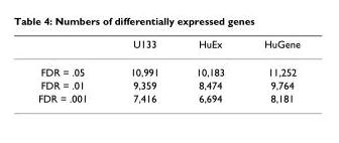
<table><thead><tr><td></td><td>U133</td><td>HuEx</td><td>HuGene</td></tr></thead><tbody><tr><td>FDR = .05</td><td>10,991</td><td>10,183</td><td>11,252</td></tr><tr><td>FDR = .01</td><td>9,359</td><td>8,474</td><td>9,764</td></tr><tr><td>FDR = .001</td><td>7,416</td><td>6,694</td><td>8,181</td></tr></tbody></table>